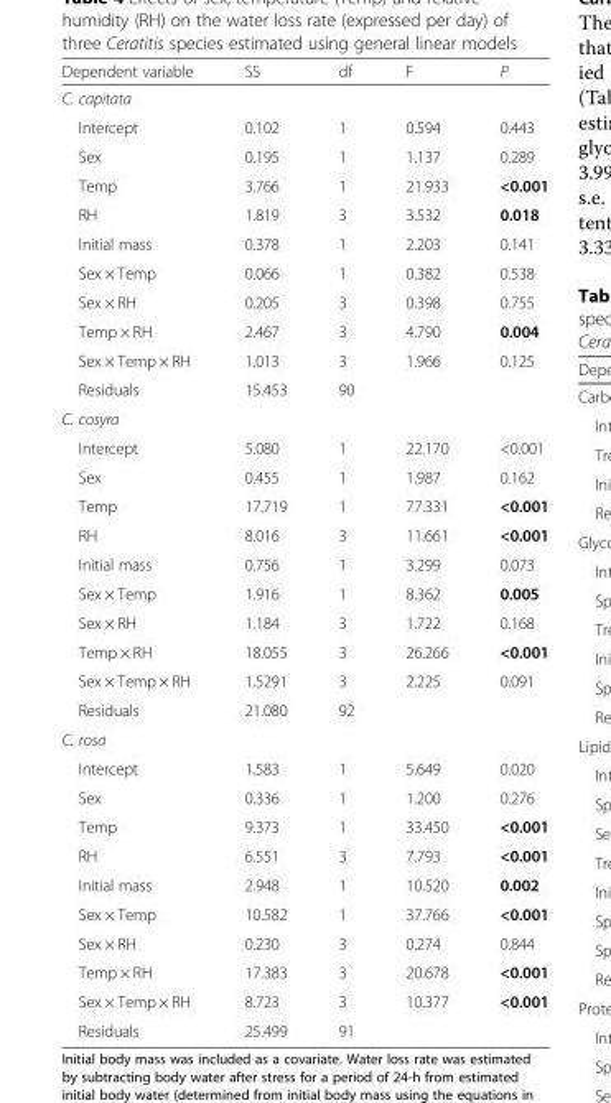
<table><thead><tr><td>Dependent variable</td><td>SS</td><td>df</td><td>F</td><td>P</td></tr></thead><tbody><tr><td colspan="5">C. capitata</td></tr><tr><td>Intercept</td><td>0.102</td><td>1</td><td>0.594</td><td>0.443</td></tr><tr><td>Sex</td><td>0.195</td><td>1</td><td>1.137</td><td>0.289</td></tr><tr><td>Temp</td><td>3.766</td><td>1</td><td>21.933</td><td>&lt;0.001</td></tr><tr><td>RH</td><td>1.819</td><td>3</td><td>3.532</td><td>0.018</td></tr><tr><td>Initial mass</td><td>0.378</td><td>1</td><td>2.203</td><td>0.141</td></tr><tr><td>Sex × Temp</td><td>0.066</td><td>1</td><td>0.382</td><td>0.538</td></tr><tr><td>Sex × RH</td><td>0.205</td><td>3</td><td>0.398</td><td>0.755</td></tr><tr><td>Temp × RH</td><td>2.467</td><td>3</td><td>4.790</td><td>0.004</td></tr><tr><td>Sex × Temp × RH</td><td>1.013</td><td>3</td><td>1.966</td><td>0.125</td></tr><tr><td>Residuals</td><td>15.453</td><td>90</td><td></td><td></td></tr><tr><td colspan="5">C. cosyra</td></tr><tr><td>Intercept</td><td>5.080</td><td>1</td><td>22.170</td><td>&lt;0.001</td></tr><tr><td>Sex</td><td>0.455</td><td>1</td><td>1.987</td><td>0.162</td></tr><tr><td>Temp</td><td>17.719</td><td>1</td><td>77.331</td><td>&lt;0.001</td></tr><tr><td>RH</td><td>8.016</td><td>3</td><td>11.661</td><td>&lt;0.001</td></tr><tr><td>Initial mass</td><td>0.756</td><td>1</td><td>3.299</td><td>0.073</td></tr><tr><td>Sex × Temp</td><td>1.916</td><td>1</td><td>8.362</td><td>0.005</td></tr><tr><td>Sex × RH</td><td>1.184</td><td>3</td><td>1.722</td><td>0.168</td></tr><tr><td>Temp × RH</td><td>18.055</td><td>3</td><td>26.266</td><td>&lt;0.001</td></tr><tr><td>Sex × Temp × RH</td><td>1.5291</td><td>3</td><td>2.225</td><td>0.091</td></tr><tr><td>Residuals</td><td>21.080</td><td>92</td><td></td><td></td></tr><tr><td colspan="5">C. rosa</td></tr><tr><td>Intercept</td><td>1.583</td><td>1</td><td>5.649</td><td>0.020</td></tr><tr><td>Sex</td><td>0.336</td><td>1</td><td>1.200</td><td>0.276</td></tr><tr><td>Temp</td><td>9.373</td><td>1</td><td>33.450</td><td>&lt;0.001</td></tr><tr><td>RH</td><td>6.551</td><td>3</td><td>7.793</td><td>&lt;0.001</td></tr><tr><td>Initial mass</td><td>2.948</td><td>1</td><td>10.520</td><td>0.002</td></tr><tr><td>Sex × Temp</td><td>10.582</td><td>1</td><td>37.766</td><td>&lt;0.001</td></tr><tr><td>Sex × RH</td><td>0.230</td><td>3</td><td>0.274</td><td>0.844</td></tr><tr><td>Temp × RH</td><td>17.383</td><td>3</td><td>20.678</td><td>&lt;0.001</td></tr><tr><td>Sex × Temp × RH</td><td>8.723</td><td>3</td><td>10.377</td><td>&lt;0.001</td></tr><tr><td>Residuals</td><td>25.499</td><td>91</td><td></td><td></td></tr></tbody></table>